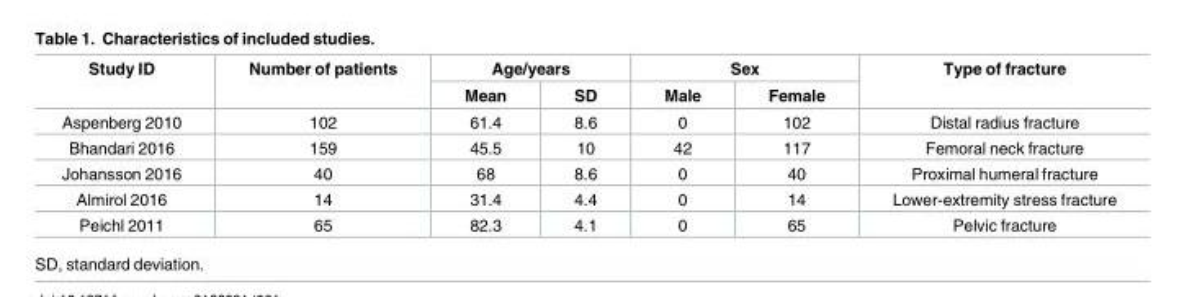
<table><thead><tr><td rowspan="2">Study ID</td><td rowspan="2">Number of patients</td><td colspan="2">Age/years</td><td colspan="2">Sex</td><td rowspan="2">Type of fracture</td></tr><tr><td>Mean</td><td>SD</td><td>Male</td><td>Female</td></tr></thead><tbody><tr><td>Aspenberg 2010</td><td>102</td><td>61.4</td><td>8.6</td><td>0</td><td>102</td><td>Distal radius fracture</td></tr><tr><td>Bhandari 2016</td><td>159</td><td>45.5</td><td>10</td><td>42</td><td>117</td><td>Femoral neck fracture</td></tr><tr><td>Johansson 2016</td><td>40</td><td>68</td><td>8.6</td><td>0</td><td>40</td><td>Proximal humeral fracture</td></tr><tr><td>Almirol 2016</td><td>14</td><td>31.4</td><td>4.4</td><td>0</td><td>14</td><td>Lower-extremity stress fracture</td></tr><tr><td>Peichl 2011</td><td>65</td><td>82.3</td><td>4.1</td><td>0</td><td>65</td><td>Pelvic fracture</td></tr></tbody></table>